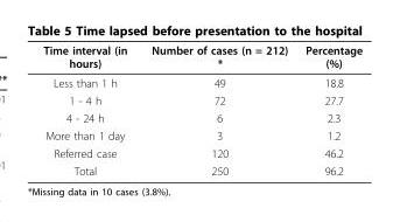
<table><thead><tr><td>Time interval (in hours)</td><td>Number of cases (n = 212) *</td><td>Percentage (%)</td></tr></thead><tbody><tr><td>Less than 1 h</td><td>49</td><td>18.8</td></tr><tr><td>1 - 4 h</td><td>72</td><td>27.7</td></tr><tr><td>4 - 24 h</td><td>6</td><td>2.3</td></tr><tr><td>More than 1 day</td><td>3</td><td>1.2</td></tr><tr><td>Referred case</td><td>120</td><td>46.2</td></tr><tr><td>Total</td><td>250</td><td>96.2</td></tr></tbody></table>